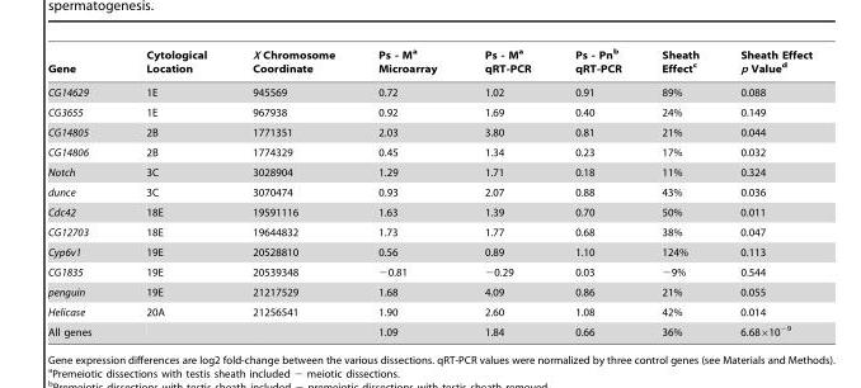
<table><thead><tr><td>Gene</td><td>Cytological Location</td><td>X Chromosome Coordinate</td><td>Ps - M<sup>a</sup> Microarray</td><td>Ps - M<sup>a</sup> qRT-PCR</td><td>Ps - Pn<sup>b</sup> qRT-PCR</td><td>Sheath Effect<sup>c</sup></td><td>Sheath Effect p Value<sup>d</sup></td></tr></thead><tbody><tr><td>CG14629</td><td>1E</td><td>945569</td><td>0.72</td><td>1.02</td><td>0.91</td><td>89%</td><td>0.088</td></tr><tr><td>CG3655</td><td>1E</td><td>967938</td><td>0.92</td><td>1.69</td><td>0.40</td><td>24%</td><td>0.149</td></tr><tr><td>CG14805</td><td>2B</td><td>1771351</td><td>2.03</td><td>3.80</td><td>0.81</td><td>21%</td><td>0.044</td></tr><tr><td>CG14806</td><td>2B</td><td>1774329</td><td>0.45</td><td>1.34</td><td>0.23</td><td>17%</td><td>0.032</td></tr><tr><td>Notch</td><td>3C</td><td>3028904</td><td>1.29</td><td>1.71</td><td>0.18</td><td>11%</td><td>0.324</td></tr><tr><td>dunce</td><td>3C</td><td>3070474</td><td>0.93</td><td>2.07</td><td>0.88</td><td>43%</td><td>0.036</td></tr><tr><td>Cdc42</td><td>18E</td><td>19591116</td><td>1.63</td><td>1.39</td><td>0.70</td><td>50%</td><td>0.011</td></tr><tr><td>CG12703</td><td>18E</td><td>19644832</td><td>1.73</td><td>1.77</td><td>0.68</td><td>38%</td><td>0.047</td></tr><tr><td>Cyp6v1</td><td>19E</td><td>20528810</td><td>0.56</td><td>0.89</td><td>1.10</td><td>124%</td><td>0.113</td></tr><tr><td>CG1835</td><td>19E</td><td>20539348</td><td>−0.81</td><td>−0.29</td><td>0.03</td><td>−9%</td><td>0.544</td></tr><tr><td>penguin</td><td>19E</td><td>21217529</td><td>1.68</td><td>4.09</td><td>0.86</td><td>21%</td><td>0.055</td></tr><tr><td>Helicase</td><td>20A</td><td>21256541</td><td>1.90</td><td>2.60</td><td>1.08</td><td>42%</td><td>0.014</td></tr><tr><td>All genes</td><td></td><td></td><td>1.09</td><td>1.84</td><td>0.66</td><td>36%</td><td>6.68×10<sup>−9</sup></td></tr></tbody></table>